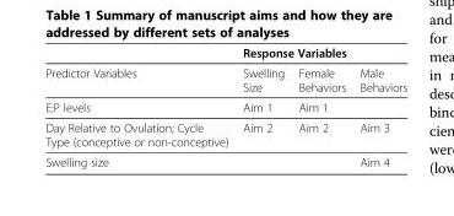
<table><thead><tr><td rowspan="2">Predictor Variables</td><td colspan="3">Response Variables</td></tr><tr><td>Swelling Size</td><td>Female Behaviors</td><td>Male Behaviors</td></tr></thead><tbody><tr><td>E:P levels</td><td>Aim 1</td><td>Aim 1</td><td></td></tr><tr><td>Day Relative to Ovulation; Cycle Type (conceptive or non-conceptive)</td><td>Aim 2</td><td>Aim 2</td><td>Aim 3</td></tr><tr><td>Swelling size</td><td></td><td></td><td>Aim 4</td></tr></tbody></table>